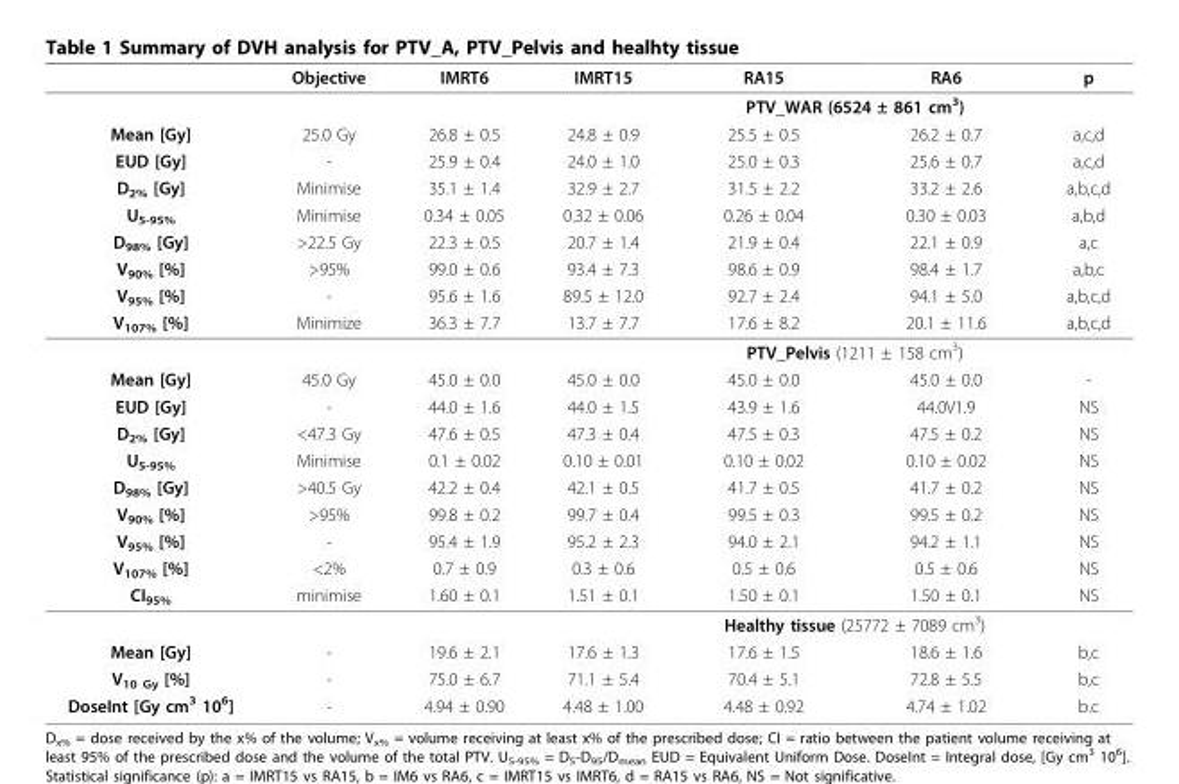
<table><thead><tr><td></td><td>Objective</td><td>IMRT6</td><td>IMRT15</td><td>RA15</td><td>RA6</td><td>p</td></tr></thead><tbody><tr><td></td><td></td><td></td><td></td><td colspan="2">PTV_WAR (6524 ± 861 cm<sup>3</sup>)</td><td></td></tr><tr><td>Mean [Gy]</td><td>25.0 Gy</td><td>26.8 ± 0.5</td><td>24.8 ± 0.9</td><td>25.5 ± 0.5</td><td>26.2 ± 0.7</td><td>a,c,d</td></tr><tr><td>EUD [Gy]</td><td>-</td><td>25.9 ± 0.4</td><td>24.0 ± 1.0</td><td>25.0 ± 0.3</td><td>25.6 ± 0.7</td><td>a,c,d</td></tr><tr><td>D<sub>2%</sub> [Gy]</td><td>Minimise</td><td>35.1 ± 1.4</td><td>32.9 ± 2.7</td><td>31.5 ± 2.2</td><td>33.2 ± 2.6</td><td>a,b,c,d</td></tr><tr><td>U<sub>5-95%</sub></td><td>Minimise</td><td>0.34 ± 0.05</td><td>0.32 ± 0.06</td><td>0.26 ± 0.04</td><td>0.30 ± 0.03</td><td>a,b,d</td></tr><tr><td>D<sub>98%</sub> [Gy]</td><td>&gt;22.5 Gy</td><td>22.3 ± 0.5</td><td>20.7 ± 1.4</td><td>21.9 ± 0.4</td><td>22.1 ± 0.9</td><td>a,c</td></tr><tr><td>V<sub>90%</sub> [%]</td><td>&gt;95%</td><td>99.0 ± 0.6</td><td>93.4 ± 7.3</td><td>98.6 ± 0.9</td><td>98.4 ± 1.7</td><td>a,b,c</td></tr><tr><td>V<sub>95%</sub> [%]</td><td>-</td><td>95.6 ± 1.6</td><td>89.5 ± 12.0</td><td>92.7 ± 2.4</td><td>94.1 ± 5.0</td><td>a,b,c,d</td></tr><tr><td rowspan="2">V<sub>107%</sub> [%]</td><td>Minimize</td><td>36.3 ± 7.7</td><td>13.7 ± 7.7</td><td>17.6 ± 8.2</td><td>20.1 ± 11.6</td><td>a,b,c,d</td></tr><tr><td></td><td></td><td></td><td colspan="2">PTV_Pelvis (1211 ± 158 cm<sup>3</sup>)</td><td></td></tr><tr><td>Mean [Gy]</td><td>45.0 Gy</td><td>45.0 ± 0.0</td><td>45.0 ± 0.0</td><td>45.0 ± 0.0</td><td>45.0 ± 0.0</td><td>-</td></tr><tr><td>EUD [Gy]</td><td>-</td><td>44.0 ± 1.6</td><td>44.0 ± 1.5</td><td>43.9 ± 1.6</td><td>44.0V1.9</td><td>NS</td></tr><tr><td>D<sub>2%</sub> [Gy]</td><td>&lt;47.3 Gy</td><td>47.6 ± 0.5</td><td>47.3 ± 0.4</td><td>47.5 ± 0.3</td><td>47.5 ± 0.2</td><td>NS</td></tr><tr><td>U<sub>5-95%</sub></td><td>Minimise</td><td>0.1 ± 0.02</td><td>0.10 ± 0.01</td><td>0.10 ± 0.02</td><td>0.10 ± 0.02</td><td>NS</td></tr><tr><td>D<sub>98%</sub> [Gy]</td><td>&gt;40.5 Gy</td><td>42.2 ± 0.4</td><td>42.1 ± 0.5</td><td>41.7 ± 0.5</td><td>41.7 ± 0.2</td><td>NS</td></tr><tr><td>V<sub>90%</sub> [%]</td><td>&gt;95%</td><td>99.8 ± 0.2</td><td>99.7 ± 0.4</td><td>99.5 ± 0.3</td><td>99.5 ± 0.2</td><td>NS</td></tr><tr><td>V<sub>95%</sub> [%]</td><td>-</td><td>95.4 ± 1.9</td><td>95.2 ± 2.3</td><td>94.0 ± 2.1</td><td>94.2 ± 1.1</td><td>NS</td></tr><tr><td>V<sub>107%</sub> [%]</td><td>&lt;2%</td><td>0.7 ± 0.9</td><td>0.3 ± 0.6</td><td>0.5 ± 0.6</td><td>0.5 ± 0.6</td><td>NS</td></tr><tr><td rowspan="2">CI<sub>95%</sub></td><td>minimise</td><td>1.60 ± 0.1</td><td>1.51 ± 0.1</td><td>1.50 ± 0.1</td><td>1.50 ± 0.1</td><td>NS</td></tr><tr><td></td><td></td><td></td><td colspan="2">Healthy tissue (25772 ± 7089 cm<sup>3</sup>)</td><td></td></tr><tr><td>Mean [Gy]</td><td>-</td><td>19.6 ± 2.1</td><td>17.6 ± 1.3</td><td>17.6 ± 1.5</td><td>18.6 ± 1.6</td><td>b,c</td></tr><tr><td>V<sub>10 Gy</sub> [%]</td><td>-</td><td>75.0 ± 6.7</td><td>71.1 ± 5.4</td><td>70.4 ± 5.1</td><td>72.8 ± 5.5</td><td>b,c</td></tr><tr><td>DoseInt [Gy cm<sup>3</sup> 10<sup>6</sup>]</td><td>-</td><td>4.94 ± 0.90</td><td>4.48 ± 1.00</td><td>4.48 ± 0.92</td><td>4.74 ± 1.02</td><td>b.c</td></tr></tbody></table>